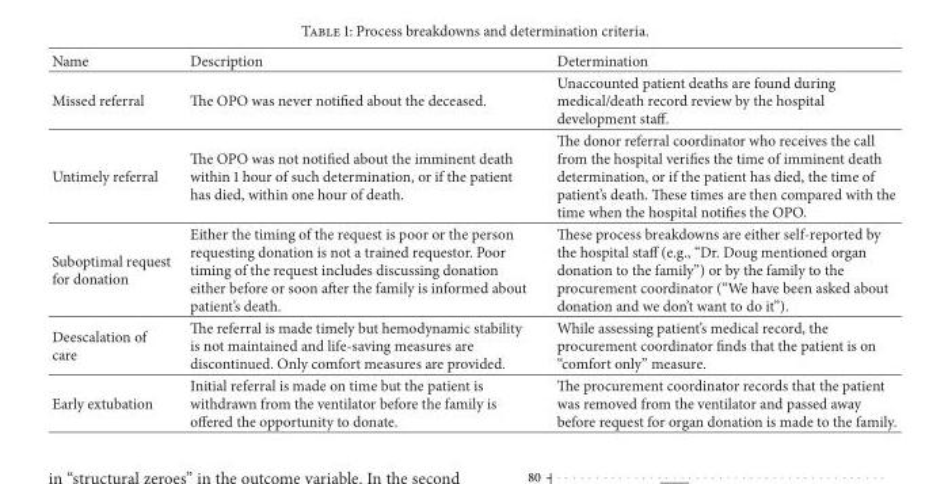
<table><thead><tr><td>Name</td><td>Description</td><td>Determination</td></tr></thead><tbody><tr><td>Missed referral</td><td>The OPO was never notified about the deceased.</td><td>Unaccounted patient deaths are found during medical/death record review by the hospital development staff.</td></tr><tr><td>Untimely referral</td><td>The OPO was not notified about the imminent death within 1 hour of such determination, or if the patient has died, within one hour of death.</td><td>The donor referral coordinator who receives the call from the hospital verifies the time of imminent death determination, or if the patient has died, the time of patient’s death. These times are then compared with the time when the hospital notifies the OPO.</td></tr><tr><td>Suboptimal request for donation</td><td>Either the timing of the request is poor or the person requesting donation is not a trained requestor. Poor timing of the request includes discussing donation either before or soon after the family is informed about patient’s death.</td><td>These process breakdowns are either self-reported by the hospital staff (e.g., “Dr. Doug mentioned organ donation to the family”) or by the family to the procurement coordinator (“We have been asked about donation and we don’t want to do it”).</td></tr><tr><td>Deescalation of care</td><td>The referral is made timely but hemodynamic stability is not maintained and life-saving measures are discontinued. Only comfort measures are provided.</td><td>While assessing patient’s medical record, the procurement coordinator finds that the patient is on “comfort only” measure.</td></tr><tr><td>Early extubation</td><td>Initial referral is made on time but the patient is withdrawn from the ventilator before the family is offered the opportunity to donate.</td><td>The procurement coordinator records that the patient was removed from the ventilator and passed away before request for organ donation is made to the family.</td></tr></tbody></table>